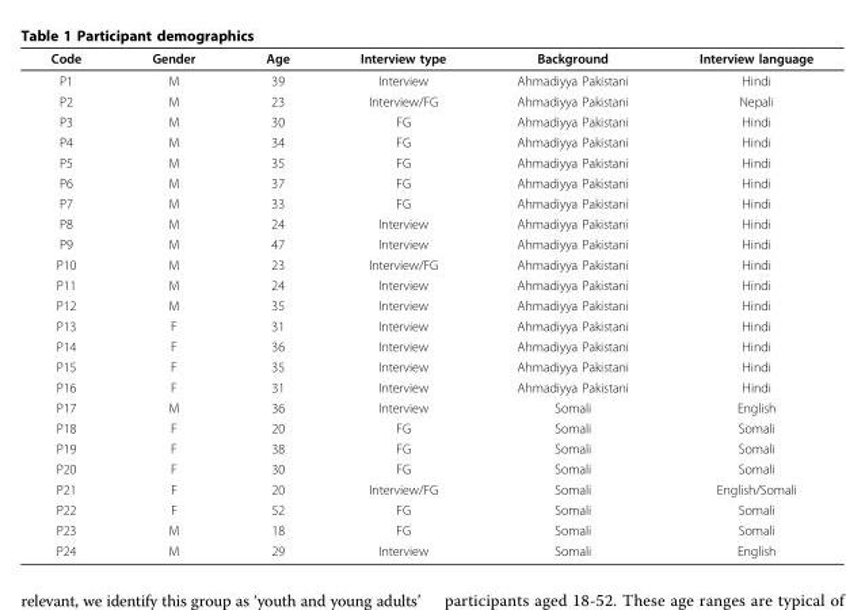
<table><thead><tr><td>Code</td><td>Gender</td><td>Age</td><td>Interview type</td><td>Background</td><td>Interview language</td></tr></thead><tbody><tr><td>P1</td><td>M</td><td>39</td><td>Interview</td><td>Ahmadiyya Pakistani</td><td>Hindi</td></tr><tr><td>P2</td><td>M</td><td>23</td><td>Interview/FG</td><td>Ahmadiyya Pakistani</td><td>Nepali</td></tr><tr><td>P3</td><td>M</td><td>30</td><td>FG</td><td>Ahmadiyya Pakistani</td><td>Hindi</td></tr><tr><td>P4</td><td>M</td><td>34</td><td>FG</td><td>Ahmadiyya Pakistani</td><td>Hindi</td></tr><tr><td>P5</td><td>M</td><td>35</td><td>FG</td><td>Ahmadiyya Pakistani</td><td>Hindi</td></tr><tr><td>P6</td><td>M</td><td>37</td><td>FG</td><td>Ahmadiyya Pakistani</td><td>Hindi</td></tr><tr><td>P7</td><td>M</td><td>33</td><td>FG</td><td>Ahmadiyya Pakistani</td><td>Hindi</td></tr><tr><td>P8</td><td>M</td><td>24</td><td>Interview</td><td>Ahmadiyya Pakistani</td><td>Hindi</td></tr><tr><td>P9</td><td>M</td><td>47</td><td>Interview</td><td>Ahmadiyya Pakistani</td><td>Hindi</td></tr><tr><td>P10</td><td>M</td><td>23</td><td>Interview/FG</td><td>Ahmadiyya Pakistani</td><td>Hindi</td></tr><tr><td>P11</td><td>M</td><td>24</td><td>Interview</td><td>Ahmadiyya Pakistani</td><td>Hindi</td></tr><tr><td>P12</td><td>M</td><td>35</td><td>Interview</td><td>Ahmadiyya Pakistani</td><td>Hindi</td></tr><tr><td>P13</td><td>F</td><td>31</td><td>Interview</td><td>Ahmadiyya Pakistani</td><td>Hindi</td></tr><tr><td>P14</td><td>F</td><td>36</td><td>Interview</td><td>Ahmadiyya Pakistani</td><td>Hindi</td></tr><tr><td>P15</td><td>F</td><td>35</td><td>Interview</td><td>Ahmadiyya Pakistani</td><td>Hindi</td></tr><tr><td>P16</td><td>F</td><td>31</td><td>Interview</td><td>Ahmadiyya Pakistani</td><td>Hindi</td></tr><tr><td>P17</td><td>M</td><td>36</td><td>Interview</td><td>Somali</td><td>English</td></tr><tr><td>P18</td><td>F</td><td>20</td><td>FG</td><td>Somali</td><td>Somali</td></tr><tr><td>P19</td><td>F</td><td>38</td><td>FG</td><td>Somali</td><td>Somali</td></tr><tr><td>P20</td><td>F</td><td>30</td><td>FG</td><td>Somali</td><td>Somali</td></tr><tr><td>P21</td><td>F</td><td>20</td><td>Interview/FG</td><td>Somali</td><td>English/Somali</td></tr><tr><td>P22</td><td>F</td><td>52</td><td>FG</td><td>Somali</td><td>Somali</td></tr><tr><td>P23</td><td>M</td><td>18</td><td>FG</td><td>Somali</td><td>Somali</td></tr><tr><td>P24</td><td>M</td><td>29</td><td>Interview</td><td>Somali</td><td>English</td></tr></tbody></table>